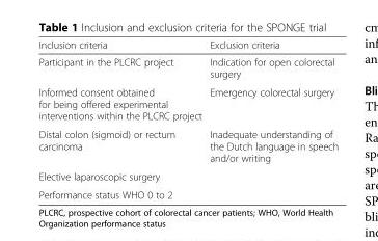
<table><thead><tr><td>Inclusion criteria</td><td>Exclusion criteria</td></tr></thead><tbody><tr><td>Participant in the PLCRC project</td><td>Indication for open colorectal surgery</td></tr><tr><td>Informed consent obtained for being offered experimental interventions within the PLCRC project</td><td>Emergency colorectal surgery</td></tr><tr><td>Distal colon (sigmoid) or rectum carcinoma</td><td>Inadequate understanding of the Dutch language in speech and/or writing</td></tr><tr><td colspan="2">Elective laparoscopic surgery</td></tr><tr><td>Performance status WHO 0 to 2</td><td></td></tr></tbody></table>